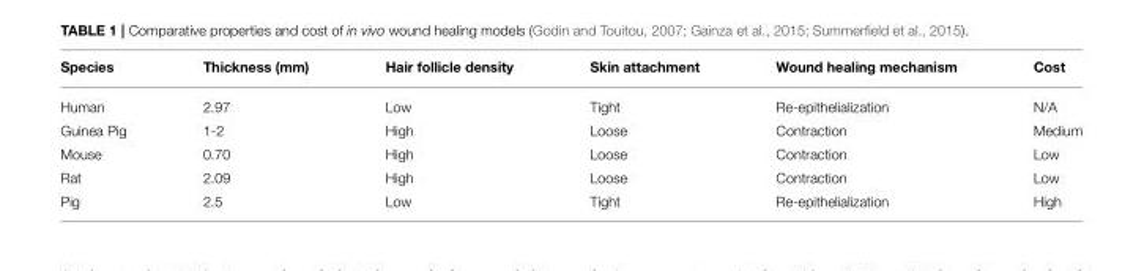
<table><thead><tr><td>Species</td><td>Thickness (mm)</td><td>Hair follicle density</td><td>Skin attachment</td><td>Wound healing mechanism</td><td>Cost</td></tr></thead><tbody><tr><td>Human</td><td>2.97</td><td>Low</td><td>Tight</td><td>Re-epithelialization</td><td>N/A</td></tr><tr><td>Guinea Pig</td><td>1-2</td><td>High</td><td>Loose</td><td>Contraction</td><td>Medium</td></tr><tr><td>Mouse</td><td>0.70</td><td>High</td><td>Loose</td><td>Contraction</td><td>Low</td></tr><tr><td>Rat</td><td>2.09</td><td>High</td><td>Loose</td><td>Contraction</td><td>Low</td></tr><tr><td>Pig</td><td>2.5</td><td>Low</td><td>Tight</td><td>Re-epithelialization</td><td>High</td></tr></tbody></table>